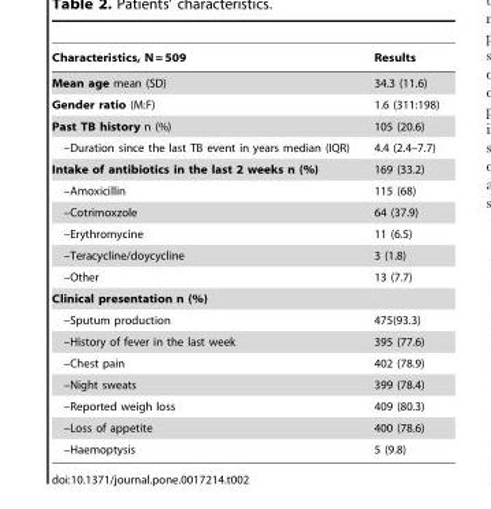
<table><thead><tr><td>Characteristics, N = 509</td><td>Results</td></tr></thead><tbody><tr><td>Mean age mean (SD)</td><td>34.3 (11.6)</td></tr><tr><td>Gender ratio (M:F)</td><td>1.6 (311:198)</td></tr><tr><td>Past TB history n (%)</td><td>105 (20.6)</td></tr><tr><td>–Duration since the last TB event in years median (IQR)</td><td>4.4 (2.4–7.7)</td></tr><tr><td>Intake of antibiotics in the last 2 weeks n (%)</td><td>169 (33.2)</td></tr><tr><td>–Amoxicillin</td><td>115 (68)</td></tr><tr><td>–Cotrimoxzole</td><td>64 (37.9)</td></tr><tr><td>–Erythromycine</td><td>11 (6.5)</td></tr><tr><td>–Teracycline/doycycline</td><td>3 (1.8)</td></tr><tr><td>–Other</td><td>13 (7.7)</td></tr><tr><td colspan="2">Clinical presentation n (%)</td></tr><tr><td>–Sputum production</td><td>475(93.3)</td></tr><tr><td>–History of fever in the last week</td><td>395 (77.6)</td></tr><tr><td>–Chest pain</td><td>402 (78.9)</td></tr><tr><td>–Night sweats</td><td>399 (78.4)</td></tr><tr><td>–Reported weigh loss</td><td>409 (80.3)</td></tr><tr><td>–Loss of appetite</td><td>400 (78.6)</td></tr><tr><td>–Haemoptysis</td><td>5 (9.8)</td></tr></tbody></table>